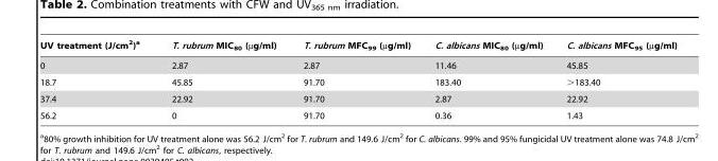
<table><thead><tr><td>UV treatment (J/cm<sup>2</sup>)<sup>a</sup></td><td>T. rubrum MIC<sub>80</sub> (µg/ml)</td><td>T. rubrum MFC<sub>99</sub> (µg/ml)</td><td>C. albicans MIC<sub>80</sub> (µg/ml)</td><td>C. albicans MFC<sub>95</sub> (µg/ml)</td></tr></thead><tbody><tr><td>0</td><td>2.87</td><td>2.87</td><td>11.46</td><td>45.85</td></tr><tr><td>18.7</td><td>45.85</td><td>91.70</td><td>183.40</td><td>&gt;183.40</td></tr><tr><td>37.4</td><td>22.92</td><td>91.70</td><td>2.87</td><td>22.92</td></tr><tr><td>56.2</td><td>0</td><td>91.70</td><td>0.36</td><td>1.43</td></tr></tbody></table>